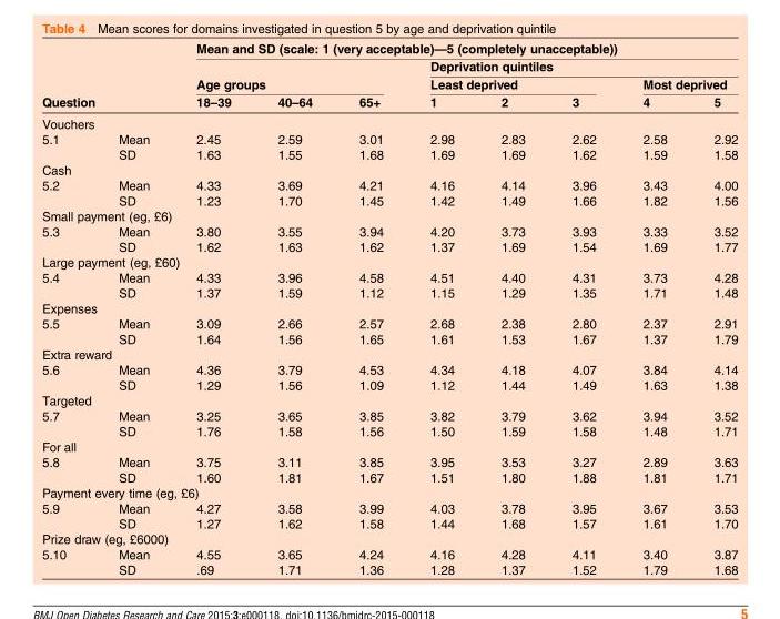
<table><thead><tr><td rowspan="3"></td><td rowspan="3"></td><td colspan="8">Mean and SD (scale: 1 (very acceptable)—5 (completely unacceptable))</td></tr><tr><td></td><td></td><td></td><td colspan="5">Deprivation quintiles</td></tr><tr><td colspan="3">Age groups</td><td colspan="3">Least deprived</td><td colspan="2">Most deprived</td></tr><tr><td colspan="2">Question</td><td>18–39</td><td>40–64</td><td>65+</td><td>1</td><td>2</td><td>3</td><td>4</td><td>5</td></tr></thead><tbody><tr><td colspan="10">Vouchers</td></tr><tr><td rowspan="2">5.1</td><td>Mean</td><td>2.45</td><td>2.59</td><td>3.01</td><td>2.98</td><td>2.83</td><td>2.62</td><td>2.58</td><td>2.92</td></tr><tr><td>SD</td><td>1.63</td><td>1.55</td><td>1.68</td><td>1.69</td><td>1.69</td><td>1.62</td><td>1.59</td><td>1.58</td></tr><tr><td colspan="10">Cash</td></tr><tr><td rowspan="2">5.2</td><td>Mean</td><td>4.33</td><td>3.69</td><td>4.21</td><td>4.16</td><td>4.14</td><td>3.96</td><td>3.43</td><td>4.00</td></tr><tr><td>SD</td><td>1.23</td><td>1.70</td><td>1.45</td><td>1.42</td><td>1.49</td><td>1.66</td><td>1.82</td><td>1.56</td></tr><tr><td colspan="10">Small payment (eg, £6)</td></tr><tr><td rowspan="2">5.3</td><td>Mean</td><td>3.80</td><td>3.55</td><td>3.94</td><td>4.20</td><td>3.73</td><td>3.93</td><td>3.33</td><td>3.52</td></tr><tr><td>SD</td><td>1.62</td><td>1.63</td><td>1.62</td><td>1.37</td><td>1.69</td><td>1.54</td><td>1.69</td><td>1.77</td></tr><tr><td colspan="10">Large payment (eg, £60)</td></tr><tr><td rowspan="2">5.4</td><td>Mean</td><td>4.33</td><td>3.96</td><td>4.58</td><td>4.51</td><td>4.40</td><td>4.31</td><td>3.73</td><td>4.28</td></tr><tr><td>SD</td><td>1.37</td><td>1.59</td><td>1.12</td><td>1.15</td><td>1.29</td><td>1.35</td><td>1.71</td><td>1.48</td></tr><tr><td colspan="10">Expenses</td></tr><tr><td rowspan="2">5.5</td><td>Mean</td><td>3.09</td><td>2.66</td><td>2.57</td><td>2.68</td><td>2.38</td><td>2.80</td><td>2.37</td><td>2.91</td></tr><tr><td>SD</td><td>1.64</td><td>1.56</td><td>1.65</td><td>1.61</td><td>1.53</td><td>1.67</td><td>1.37</td><td>1.79</td></tr><tr><td colspan="10">Extra reward</td></tr><tr><td rowspan="2">5.6</td><td>Mean</td><td>4.36</td><td>3.79</td><td>4.53</td><td>4.34</td><td>4.18</td><td>4.07</td><td>3.84</td><td>4.14</td></tr><tr><td>SD</td><td>1.29</td><td>1.56</td><td>1.09</td><td>1.12</td><td>1.44</td><td>1.49</td><td>1.63</td><td>1.38</td></tr><tr><td colspan="10">Targeted</td></tr><tr><td rowspan="2">5.7</td><td>Mean</td><td>3.25</td><td>3.65</td><td>3.85</td><td>3.82</td><td>3.79</td><td>3.62</td><td>3.94</td><td>3.52</td></tr><tr><td>SD</td><td>1.76</td><td>1.58</td><td>1.56</td><td>1.50</td><td>1.59</td><td>1.58</td><td>1.48</td><td>1.71</td></tr><tr><td colspan="10">For all</td></tr><tr><td rowspan="2">5.8</td><td>Mean</td><td>3.75</td><td>3.11</td><td>3.85</td><td>3.95</td><td>3.53</td><td>3.27</td><td>2.89</td><td>3.63</td></tr><tr><td>SD</td><td>1.60</td><td>1.81</td><td>1.67</td><td>1.51</td><td>1.80</td><td>1.88</td><td>1.81</td><td>1.71</td></tr><tr><td colspan="10">Payment every time (eg, £6)</td></tr><tr><td rowspan="2">5.9</td><td>Mean</td><td>4.27</td><td>3.58</td><td>3.99</td><td>4.03</td><td>3.78</td><td>3.95</td><td>3.67</td><td>3.53</td></tr><tr><td>SD</td><td>1.27</td><td>1.62</td><td>1.58</td><td>1.44</td><td>1.68</td><td>1.57</td><td>1.61</td><td>1.70</td></tr><tr><td colspan="10">Prize draw (eg, £6000)</td></tr><tr><td rowspan="2">5.10</td><td>Mean</td><td>4.55</td><td>3.65</td><td>4.24</td><td>4.16</td><td>4.28</td><td>4.11</td><td>3.40</td><td>3.87</td></tr><tr><td>SD</td><td>.69</td><td>1.71</td><td>1.36</td><td>1.28</td><td>1.37</td><td>1.52</td><td>1.79</td><td>1.68</td></tr></tbody></table>